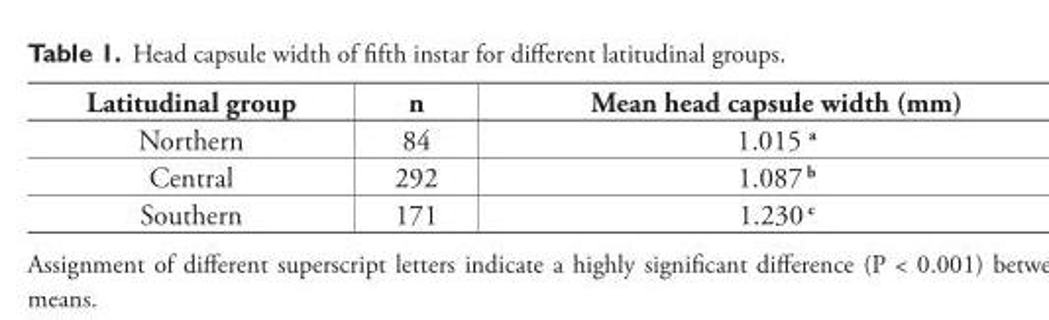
<table><thead><tr><td>Latitudinal group</td><td>n</td><td>Mean head capsule width (mm)</td></tr></thead><tbody><tr><td>Northern</td><td>84</td><td>1.015 <sup>a</sup></td></tr><tr><td>Central</td><td>292</td><td>1.087 <sup>b</sup></td></tr><tr><td>Southern</td><td>171</td><td>1.230 <sup>c</sup></td></tr></tbody></table>